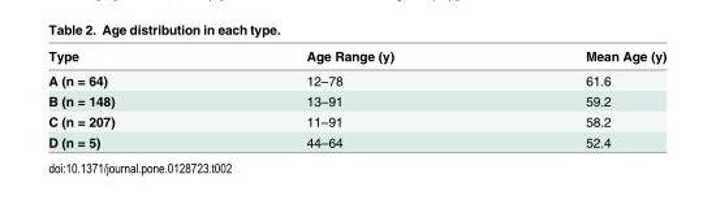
<table><thead><tr><td>Type</td><td>Age Range (y)</td><td>Mean Age (y)</td></tr></thead><tbody><tr><td>A (n = 64)</td><td>12–78</td><td>61.6</td></tr><tr><td>B (n = 148)</td><td>13–91</td><td>59.2</td></tr><tr><td>C (n = 207)</td><td>11–91</td><td>58.2</td></tr><tr><td>D (n = 5)</td><td>44–64</td><td>52.4</td></tr></tbody></table>